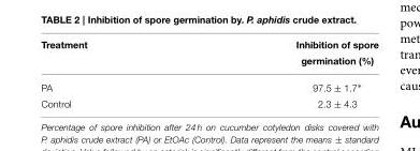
<table><thead><tr><td>Treatment</td><td>Inhibition of spore germination (%)</td></tr></thead><tbody><tr><td>PA</td><td>97.5 ± 1.7∗</td></tr><tr><td>Control</td><td>2.3 ± 4.3</td></tr></tbody></table>